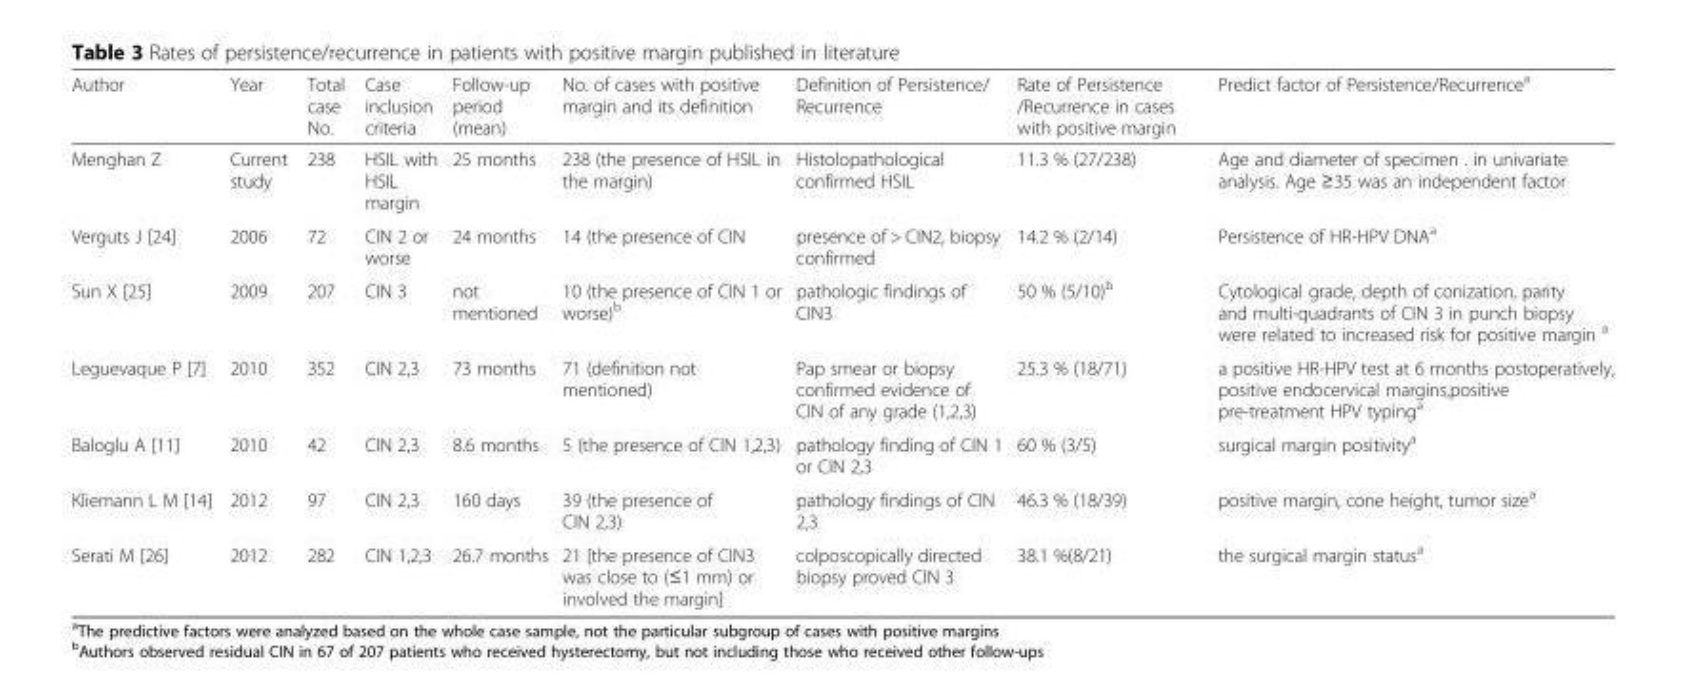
<table><thead><tr><td>Author</td><td>Year</td><td>Total case No.</td><td>Case inclusion criteria</td><td>Follow-up period (mean)</td><td>No. of cases with positive margin and its definition</td><td>Definition of Persistence/ Recurrence</td><td>Rate of Persistence /Recurrence in cases with positive margin</td><td>Predict factor of Persistence/Recurrence<sup>a</sup></td></tr></thead><tbody><tr><td>Menghan Z</td><td>Current study</td><td>238</td><td>HSIL with HSIL margin</td><td>25 months</td><td>238 (the presence of HSIL in the margin)</td><td>Histolopathological confirmed HSIL</td><td>11.3 % (27/238)</td><td>Age and diameter of specimen . in univariate analysis. Age ≥35 was an independent factor</td></tr><tr><td>Verguts J [24]</td><td>2006</td><td>72</td><td>CIN 2 or worse</td><td>24 months</td><td>14 (the presence of CIN</td><td>presence of &gt; CIN2, biopsy confirmed</td><td>14.2 % (2/14)</td><td>Persistence of HR-HPV DNA<sup>a</sup></td></tr><tr><td>Sun X [25]</td><td>2009</td><td>207</td><td>CIN 3</td><td>not mentioned</td><td>10 (the presence of CIN 1 or worse)<sup>b</sup></td><td>pathologic findings of CIN3</td><td>50 % (5/10)<sup>b</sup></td><td>Cytological grade, depth of conization, parity and multi-quadrants of CIN 3 in punch biopsy were related to increased risk for positive margin <sup>a</sup></td></tr><tr><td>Leguevaque P [7]</td><td>2010</td><td>352</td><td>CIN 2,3</td><td>73 months</td><td>71 (definition not mentioned)</td><td>Pap smear or biopsy confirmed evidence of CIN of any grade (1,2,3)</td><td>25.3 % (18/71)</td><td>a positive HR-HPV test at 6 months postoperatively, positive endocervical margins,positive pre-treatment HPV typing<sup>a</sup></td></tr><tr><td>Baloglu A [11]</td><td>2010</td><td>42</td><td>CIN 2,3</td><td>8.6 months</td><td>5 (the presence of CIN 1,2,3)</td><td>pathology finding of CIN 1 or CIN 2,3</td><td>60 % (3/5)</td><td>surgical margin positivity<sup>a</sup></td></tr><tr><td>Kliemann L M [14]</td><td>2012</td><td>97</td><td>CIN 2,3</td><td>160 days</td><td>39 (the presence of CIN 2,3)</td><td>pathology findings of CIN 2,3</td><td>46.3 % (18/39)</td><td>positive margin, cone height, tumor size<sup>a</sup></td></tr><tr><td>Serati M [26]</td><td>2012</td><td>282</td><td>CIN 1,2,3</td><td>26.7 months</td><td>21 [the presence of CIN3 was close to (≤1 mm) or involved the margin]</td><td>colposcopically directed biopsy proved CIN 3</td><td>38.1 %(8/21)</td><td>the surgical margin status<sup>a</sup></td></tr></tbody></table>